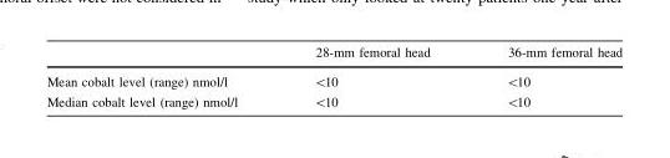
<table><thead><tr><td></td><td>28-mm femoral head</td><td>36-mm femoral head</td></tr></thead><tbody><tr><td>Mean cobalt level (range) nmol/l</td><td>&lt;10</td><td>&lt;10</td></tr><tr><td>Median cobalt level (range) nmol/l</td><td>&lt;10</td><td>&lt;10</td></tr></tbody></table>